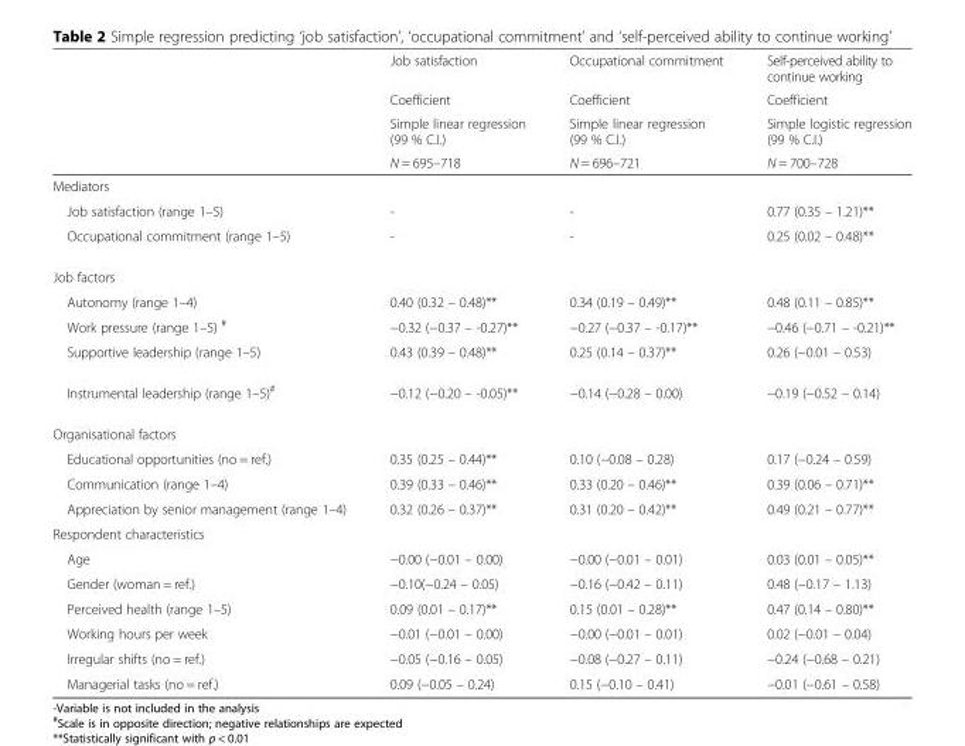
<table><thead><tr><td rowspan="4"></td><td rowspan="4">Job satisfaction Coefficient Simple linear regression (99 % C.I.) N = 695–718</td><td rowspan="4">Occupational commitment Coefficient Simple linear regression (99 % C.I.) N = 696–721</td><td rowspan="4">Self-perceived ability to continue working Coefficient Simple logistic regression (99 % C.I.) N = 700–728</td></tr><tr></tr><tr></tr><tr></tr></thead><tbody><tr><td colspan="4">Mediators</td></tr><tr><td>Job satisfaction (range 1–5)</td><td>-</td><td>-</td><td>0.77 (0.35 – 1.21)**</td></tr><tr><td>Occupational commitment (range 1–5)</td><td>-</td><td>-</td><td>0.25 (0.02 – 0.48)**</td></tr><tr><td colspan="4">Job factors</td></tr><tr><td>Autonomy (range 1–4)</td><td>0.40 (0.32 – 0.48)**</td><td>0.34 (0.19 – 0.49)**</td><td>0.48 (0.11 – 0.85)**</td></tr><tr><td>Work pressure (range 1–5) <sup>#</sup></td><td>−0.32 (−0.37 – -0.27)**</td><td>−0.27 (−0.37 – -0.17)**</td><td>−0.46 (−0.71 – -0.21)**</td></tr><tr><td>Supportive leadership (range 1–5)</td><td>0.43 (0.39 – 0.48)**</td><td>0.25 (0.14 – 0.37)**</td><td>0.26 (−0.01 – 0.53)</td></tr><tr><td>Instrumental leadership (range 1–5)<sup>#</sup></td><td>−0.12 (−0.20 – -0.05)**</td><td>−0.14 (−0.28 – 0.00)</td><td>−0.19 (−0.52 – 0.14)</td></tr><tr><td colspan="4">Organisational factors</td></tr><tr><td>Educational opportunities (no = ref.)</td><td>0.35 (0.25 – 0.44)**</td><td>0.10 (−0.08 – 0.28)</td><td>0.17 (−0.24 – 0.59)</td></tr><tr><td>Communication (range 1–4)</td><td>0.39 (0.33 – 0.46)**</td><td>0.33 (0.20 – 0.46)**</td><td>0.39 (0.06 – 0.71)**</td></tr><tr><td>Appreciation by senior management (range 1–4)</td><td>0.32 (0.26 – 0.37)**</td><td>0.31 (0.20 – 0.42)**</td><td>0.49 (0.21 – 0.77)**</td></tr><tr><td colspan="4">Respondent characteristics</td></tr><tr><td>Age</td><td>−0.00 (−0.01 – 0.00)</td><td>−0.00 (−0.01 – 0.01)</td><td>0.03 (0.01 – 0.05)**</td></tr><tr><td>Gender (woman = ref.)</td><td>−0.10(−0.24 – 0.05)</td><td>−0.16 (−0.42 – 0.11)</td><td>0.48 (−0.17 – 1.13)</td></tr><tr><td>Perceived health (range 1–5)</td><td>0.09 (0.01 – 0.17)**</td><td>0.15 (0.01 – 0.28)**</td><td>0.47 (0.14 – 0.80)**</td></tr><tr><td>Working hours per week</td><td>−0.01 (−0.01 – 0.00)</td><td>−0.00 (−0.01 – 0.01)</td><td>0.02 (−0.01 – 0.04)</td></tr><tr><td>Irregular shifts (no = ref.)</td><td>−0.05 (−0.16 – 0.05)</td><td>−0.08 (−0.27 – 0.11)</td><td>−0.24 (−0.68 – 0.21)</td></tr><tr><td>Managerial tasks (no = ref.)</td><td>0.09 (−0.05 – 0.24)</td><td>0.15 (−0.10 – 0.41)</td><td>−0.01 (−0.61 – 0.58)</td></tr></tbody></table>